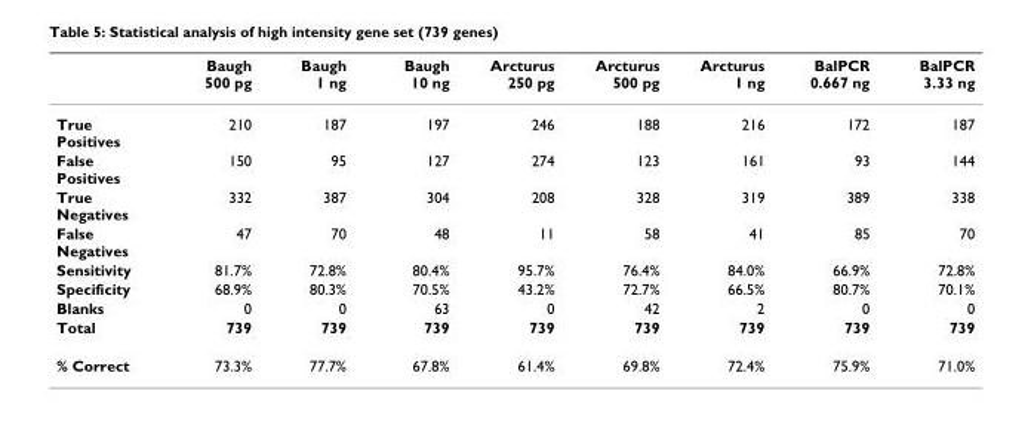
<table><thead><tr><td></td><td>Baugh 500 pg</td><td>Baugh 1 ng</td><td>Baugh 10 ng</td><td>Arcturus 250 pg</td><td>Arcturus 500 pg</td><td>Arcturus 1 ng</td><td>BalPCR 0.667 ng</td><td>BalPCR 3.33 ng</td></tr></thead><tbody><tr><td>True Positives</td><td>210</td><td>187</td><td>197</td><td>246</td><td>188</td><td>216</td><td>172</td><td>187</td></tr><tr><td>False Positives</td><td>150</td><td>95</td><td>127</td><td>274</td><td>123</td><td>161</td><td>93</td><td>144</td></tr><tr><td>True Negatives</td><td>332</td><td>387</td><td>304</td><td>208</td><td>328</td><td>319</td><td>389</td><td>338</td></tr><tr><td>False Negatives</td><td>47</td><td>70</td><td>48</td><td>11</td><td>58</td><td>41</td><td>85</td><td>70</td></tr><tr><td>Sensitivity</td><td>81.7%</td><td>72.8%</td><td>80.4%</td><td>95.7%</td><td>76.4%</td><td>84.0%</td><td>66.9%</td><td>72.8%</td></tr><tr><td>Specificity</td><td>68.9%</td><td>80.3%</td><td>70.5%</td><td>43.2%</td><td>72.7%</td><td>66.5%</td><td>80.7%</td><td>70.1%</td></tr><tr><td>Blanks</td><td>0</td><td>0</td><td>63</td><td>0</td><td>42</td><td>2</td><td>0</td><td>0</td></tr><tr><td>Total</td><td>739</td><td>739</td><td>739</td><td>739</td><td>739</td><td>739</td><td>739</td><td>739</td></tr><tr><td>% Correct</td><td>73.3%</td><td>77.7%</td><td>67.8%</td><td>61.4%</td><td>69.8%</td><td>72.4%</td><td>75.9%</td><td>71.0%</td></tr></tbody></table>